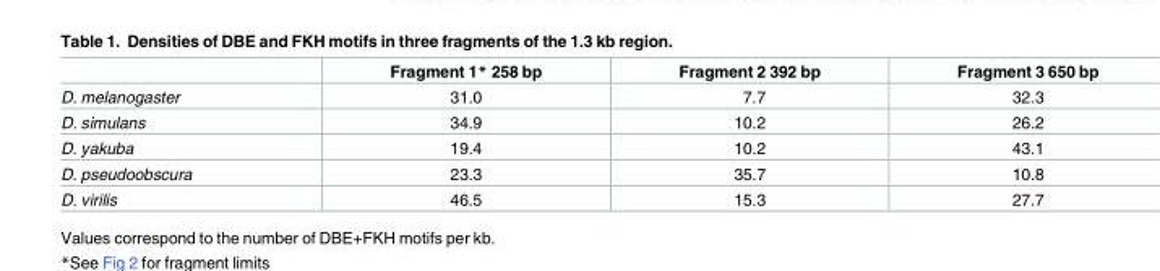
<table><thead><tr><td></td><td>Fragment 1* 258 bp</td><td>Fragment 2 392 bp</td><td>Fragment 3 650 bp</td></tr></thead><tbody><tr><td>D. melanogaster</td><td>31.0</td><td>7.7</td><td>32.3</td></tr><tr><td>D. simulans</td><td>34.9</td><td>10.2</td><td>26.2</td></tr><tr><td>D. yakuba</td><td>19.4</td><td>10.2</td><td>43.1</td></tr><tr><td>D. pseudoobscura</td><td>23.3</td><td>35.7</td><td>10.8</td></tr><tr><td>D. virilis</td><td>46.5</td><td>15.3</td><td>27.7</td></tr></tbody></table>